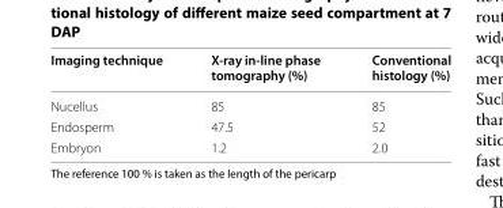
<table><thead><tr><td>Imaging technique</td><td>X‑ray in‑line phase tomography (%)</td><td>Conventional histology (%)</td></tr></thead><tbody><tr><td>Nucellus</td><td>85</td><td>85</td></tr><tr><td>Endosperm</td><td>47.5</td><td>52</td></tr><tr><td>Embryon</td><td>1.2</td><td>2.0</td></tr></tbody></table>